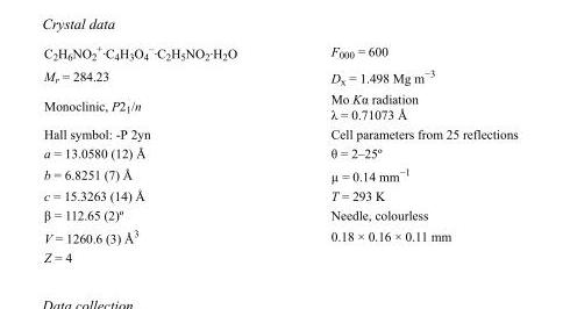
<table><tbody><tr><td>C<sub>2</sub>H<sub>6</sub>NO<sub>2</sub> <sup>+</sup>·C<sub>4</sub>H<sub>3</sub>O<sub>4</sub> <sup>–</sup>·C<sub>2</sub>H<sub>5</sub>NO<sub>2</sub>·H<sub>2</sub>O</td><td>F000 = 600</td></tr><tr><td>M<sub>r</sub> = 284.23</td><td>D<sub>x</sub> = 1.498 Mg m<sup>−3</sup></td></tr><tr><td>Monoclinic, P2<sub>1</sub>/n</td><td>Mo Kα radiation λ = 0.71073 Å</td></tr><tr><td>Hall symbol: -P 2yn</td><td>Cell parameters from 25 reflections</td></tr><tr><td>a = 13.0580 (12) Å</td><td>θ = 2–25º</td></tr><tr><td>b = 6.8251 (7) Å</td><td>µ = 0.14 mm<sup>−1</sup></td></tr><tr><td>c = 15.3263 (14) Å</td><td>T = 293 K</td></tr><tr><td>β = 112.65 (2)º</td><td>Needle, colourless</td></tr><tr><td>V = 1260.6 (3) Å<sup>3</sup></td><td>0.18 × 0.16 × 0.11 mm</td></tr><tr><td>Z = 4</td><td></td></tr></tbody></table>